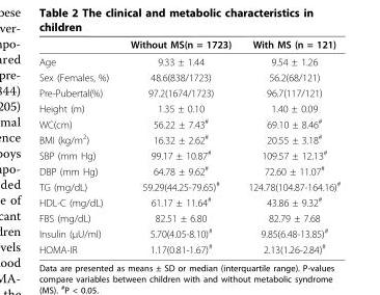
<table><thead><tr><td></td><td>Without MS(n = 1723)</td><td>With MS (n = 121)</td></tr></thead><tbody><tr><td>Age</td><td>9.33 ± 1.44</td><td>9.54 ± 1.26</td></tr><tr><td>Sex (Females, %)</td><td>48.6(838/1723)</td><td>56.2(68/121)</td></tr><tr><td>Pre-Pubertal(%)</td><td>97.2(1674/1723)</td><td>96.7(117/121)</td></tr><tr><td>Height (m)</td><td>1.35 ± 0.10</td><td>1.40 ± 0.09</td></tr><tr><td>WC(cm)</td><td>56.22 ± 7.43<sup>#</sup></td><td>69.10 ± 8.46<sup>#</sup></td></tr><tr><td>BMI (kg/m<sup>2</sup>)</td><td>16.32 ± 2.62<sup>#</sup></td><td>20.55 ± 3.18<sup>#</sup></td></tr><tr><td>SBP (mm Hg)</td><td>99.17 ± 10.87<sup>#</sup></td><td>109.57 ± 12.13<sup>#</sup></td></tr><tr><td>DBP (mm Hg)</td><td>64.78 ± 9.62<sup>#</sup></td><td>72.60 ± 11.07<sup>#</sup></td></tr><tr><td>TG (mg/dL)</td><td>59.29(44.25-79.65)<sup>#</sup></td><td>124.78(104.87-164.16)<sup>#</sup></td></tr><tr><td>HDL-C (mg/dL)</td><td>61.17 ± 11.64<sup>#</sup></td><td>43.86 ± 9.32<sup>#</sup></td></tr><tr><td>FBS (mg/dL)</td><td>82.51 ± 6.80</td><td>82.79 ± 7.68</td></tr><tr><td>Insulin (μU/ml)</td><td>5.70(4.05-8.10)<sup>#</sup></td><td>9.85(6.48-13.85)<sup>#</sup></td></tr><tr><td>HOMA-IR</td><td>1.17(0.81-1.67)<sup>#</sup></td><td>2.13(1.26-2.84)<sup>#</sup></td></tr></tbody></table>